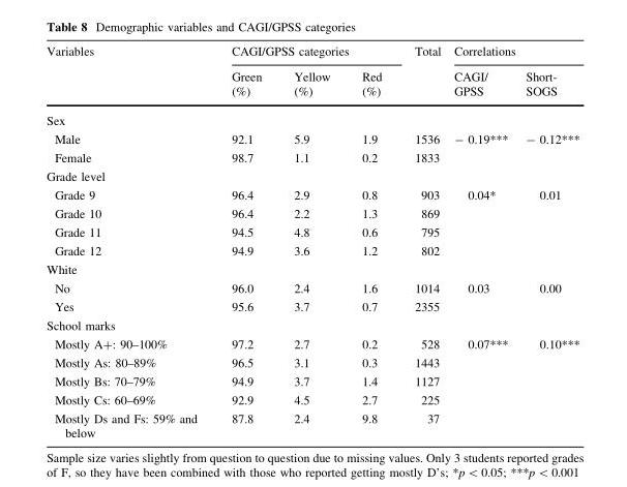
<table><thead><tr><td rowspan="2">Variables</td><td colspan="3">CAGI/GPSS categories</td><td rowspan="2">Total</td><td colspan="2">Correlations</td></tr><tr><td>Green (%)</td><td>Yellow (%)</td><td>Red (%)</td><td>CAGI/ GPSS</td><td>Short- SOGS</td></tr></thead><tbody><tr><td colspan="7">Sex</td></tr><tr><td>Male</td><td>92.1</td><td>5.9</td><td>1.9</td><td>1536</td><td>- 0.19***</td><td>- 0.12***</td></tr><tr><td>Female</td><td>98.7</td><td>1.1</td><td>0.2</td><td>1833</td><td></td><td></td></tr><tr><td colspan="7">Grade level</td></tr><tr><td>Grade 9</td><td>96.4</td><td>2.9</td><td>0.8</td><td>903</td><td>0.04*</td><td>0.01</td></tr><tr><td>Grade 10</td><td>96.4</td><td>2.2</td><td>1.3</td><td>869</td><td></td><td></td></tr><tr><td>Grade 11</td><td>94.5</td><td>4.8</td><td>0.6</td><td>795</td><td></td><td></td></tr><tr><td>Grade 12</td><td>94.9</td><td>3.6</td><td>1.2</td><td>802</td><td></td><td></td></tr><tr><td colspan="7">White</td></tr><tr><td>No</td><td>96.0</td><td>2.4</td><td>1.6</td><td>1014</td><td>0.03</td><td>0.00</td></tr><tr><td>Yes</td><td>95.6</td><td>3.7</td><td>0.7</td><td>2355</td><td></td><td></td></tr><tr><td colspan="7">School marks</td></tr><tr><td>Mostly A+: 90–100%</td><td>97.2</td><td>2.7</td><td>0.2</td><td>528</td><td>0.07***</td><td>0.10***</td></tr><tr><td>Mostly As: 80–89%</td><td>96.5</td><td>3.1</td><td>0.3</td><td>1443</td><td></td><td></td></tr><tr><td>Mostly Bs: 70–79%</td><td>94.9</td><td>3.7</td><td>1.4</td><td>1127</td><td></td><td></td></tr><tr><td>Mostly Cs: 60–69%</td><td>92.9</td><td>4.5</td><td>2.7</td><td>225</td><td></td><td></td></tr><tr><td>Mostly Ds and Fs: 59% and below</td><td>87.8</td><td>2.4</td><td>9.8</td><td>37</td><td></td><td></td></tr></tbody></table>